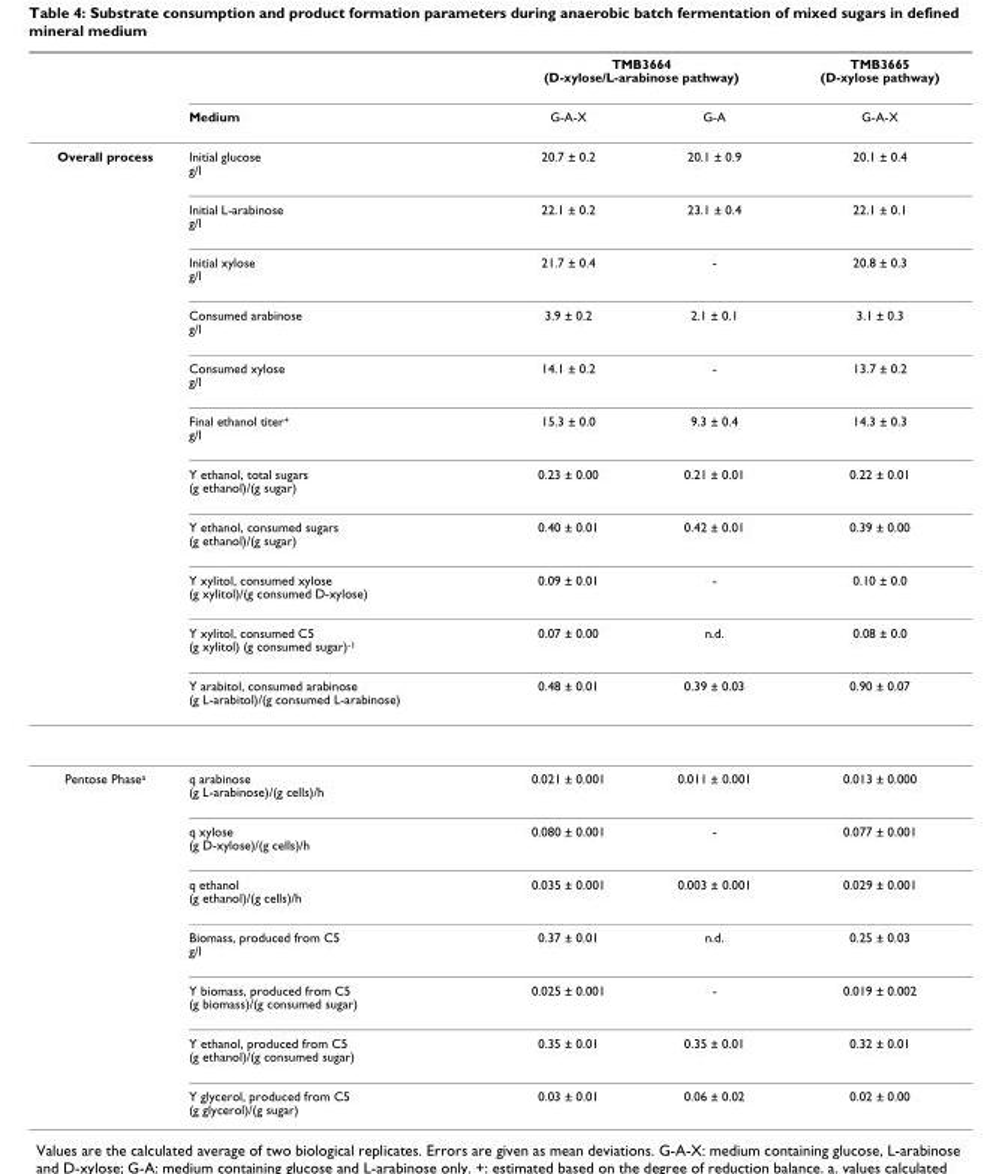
<table><thead><tr><td rowspan="2"></td><td rowspan="2">Medium</td><td colspan="2">TMB3664 (D-xylose/L-arabinose pathway)</td><td rowspan="2">TMB3665 (D-xylose pathway) G-A-X</td></tr><tr><td>G-A-X</td><td>G-A</td></tr></thead><tbody><tr><td rowspan="11">Overall process</td><td>Initial glucose g/l</td><td>20.7 ± 0.2</td><td>20.1 ± 0.9</td><td>20.1 ± 0.4</td></tr><tr><td>Initial L-arabinose g/l</td><td>22.1 ± 0.2</td><td>23.1 ± 0.4</td><td>22.1 ± 0.1</td></tr><tr><td>Initial xylose g/l</td><td>21.7 ± 0.4</td><td>-</td><td>20.8 ± 0.3</td></tr><tr><td>Consumed arabinose g/l</td><td>3.9 ± 0.2</td><td>2.1 ± 0.1</td><td>3.1 ± 0.3</td></tr><tr><td>Consumed xylose g/l</td><td>14.1 ± 0.2</td><td>-</td><td>13.7 ± 0.2</td></tr><tr><td>Final ethanol titer<sup>+</sup> g/l</td><td>15.3 ± 0.0</td><td>9.3 ± 0.4</td><td>14.3 ± 0.3</td></tr><tr><td>Y ethanol, total sugars (g ethanol)/(g sugar)</td><td>0.23 ± 0.00</td><td>0.21 ± 0.01</td><td>0.22 ± 0.01</td></tr><tr><td>Y ethanol, consumed sugars (g ethanol)/(g sugar)</td><td>0.40 ± 0.01</td><td>0.42 ± 0.01</td><td>0.39 ± 0.00</td></tr><tr><td>Y xylitol, consumed xylose (g xylitol)/(g consumed D-xylose)</td><td>0.09 ± 0.01</td><td>-</td><td>0.10 ± 0.0</td></tr><tr><td>Y xylitol, consumed C5 (g xylitol) (g consumed sugar)<sup>-1</sup></td><td>0.07 ± 0.00</td><td>n.d.</td><td>0.08 ± 0.0</td></tr><tr><td>Y arabitol, consumed arabinose (g L-arabitol)/(g consumed L-arabinose)</td><td>0.48 ± 0.01</td><td>0.39 ± 0.03</td><td>0.90 ± 0.07</td></tr><tr><td rowspan="7">Pentose Phasea</td><td>q arabinose (g L-arabinose)/(g cells)/h</td><td>0.021 ± 0.001</td><td>0.011 ± 0.001</td><td>0.013 ± 0.000</td></tr><tr><td>q xylose (g D-xylose)/(g cells)/h</td><td>0.080 ± 0.001</td><td>-</td><td>0.077 ± 0.001</td></tr><tr><td>q ethanol (g ethanol)/(g cells)/h</td><td>0.035 ± 0.001</td><td>0.003 ± 0.001</td><td>0.029 ± 0.001</td></tr><tr><td>Biomass, produced from C5 g/l</td><td>0.37 ± 0.01</td><td>n.d.</td><td>0.25 ± 0.03</td></tr><tr><td>Y biomass, produced from C5 (g biomass)/(g consumed sugar)</td><td>0.025 ± 0.001</td><td>-</td><td>0.019 ± 0.002</td></tr><tr><td>Y ethanol, produced from C5 (g ethanol)/(g consumed sugar)</td><td>0.35 ± 0.01</td><td>0.35 ± 0.01</td><td>0.32 ± 0.01</td></tr><tr><td>Y glycerol, produced from C5 (g glycerol)/(g sugar)</td><td>0.03 ± 0.01</td><td>0.06 ± 0.02</td><td>0.02 ± 0.00</td></tr></tbody></table>